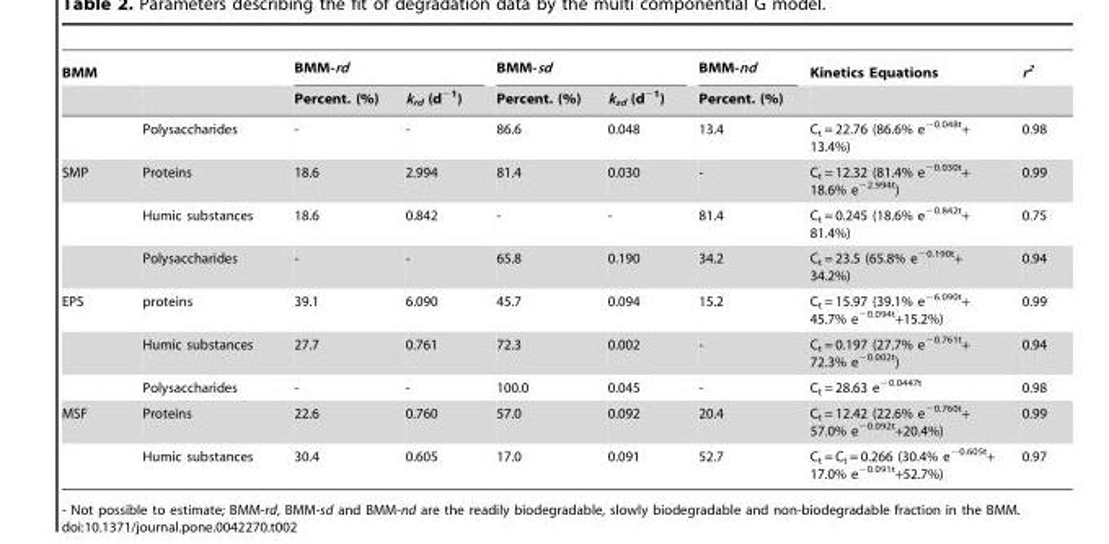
<table><thead><tr><td colspan="2">BMM</td><td colspan="2">BMM-rd</td><td colspan="2">BMM-sd</td><td rowspan="2">BMM-nd Percent. (%)</td><td rowspan="2">Kinetics Equations</td><td rowspan="2">r<sup>2</sup></td></tr><tr><td></td><td></td><td>Percent. (%)</td><td>k<sub>rd</sub> (d<sup>−1</sup>)</td><td>Percent. (%)</td><td>k<sub>sd</sub> (d<sup>−1</sup>)</td></tr></thead><tbody><tr><td></td><td>Polysaccharides</td><td>-</td><td>-</td><td>86.6</td><td>0.048</td><td>13.4</td><td>C<sub>t</sub> = 22.76 (86.6% e<sup>−0.048t</sup>+ 13.4%)</td><td>0.98</td></tr><tr><td rowspan="3">SMP</td><td>Proteins</td><td>18.6</td><td>2.994</td><td>81.4</td><td>0.030</td><td>-</td><td>C<sub>t</sub> = 12.32 (81.4% e<sup>−0.030t</sup>+ 18.6% e<sup>−2.994t</sup>)</td><td>0.99</td></tr><tr><td>Humic substances</td><td>18.6</td><td>0.842</td><td>-</td><td>-</td><td>81.4</td><td>C<sub>t</sub> = 0.245 (18.6% e<sup>−0.842t</sup>+ 81.4%)</td><td>0.75</td></tr><tr><td>Polysaccharides</td><td>-</td><td>-</td><td>65.8</td><td>0.190</td><td>34.2</td><td>C<sub>t</sub> = 23.5 (65.8% e<sup>−0.190t</sup>+ 34.2%)</td><td>0.94</td></tr><tr><td rowspan="3">EPS</td><td>proteins</td><td>39.1</td><td>6.090</td><td>45.7</td><td>0.094</td><td>15.2</td><td>C<sub>t</sub> = 15.97 (39.1% e<sup>−6.090t</sup>+ 45.7% e<sup>−0.094t</sup>+15.2%)</td><td>0.99</td></tr><tr><td>Humic substances</td><td>27.7</td><td>0.761</td><td>72.3</td><td>0.002</td><td>-</td><td>C<sub>t</sub> = 0.197 (27.7% e<sup>−0.761t</sup>+ 72.3% e<sup>−0.002t</sup>)</td><td>0.94</td></tr><tr><td>Polysaccharides</td><td>-</td><td>-</td><td>100.0</td><td>0.045</td><td>-</td><td>C<sub>t</sub> = 28.63 e<sup>−0.0447t</sup></td><td>0.98</td></tr><tr><td rowspan="2">MSF</td><td>Proteins</td><td>22.6</td><td>0.760</td><td>57.0</td><td>0.092</td><td>20.4</td><td>C<sub>t</sub> = 12.42 (22.6% e<sup>−0.760t</sup>+ 57.0% e<sup>−0.092t</sup>+20.4%)</td><td>0.99</td></tr><tr><td>Humic substances</td><td>30.4</td><td>0.605</td><td>17.0</td><td>0.091</td><td>52.7</td><td>C<sub>t</sub> = C<sub>t</sub> = 0.266 (30.4% e<sup>−0.605t</sup>+ 17.0% e<sup>−0.091t</sup>+52.7%)</td><td>0.97</td></tr></tbody></table>